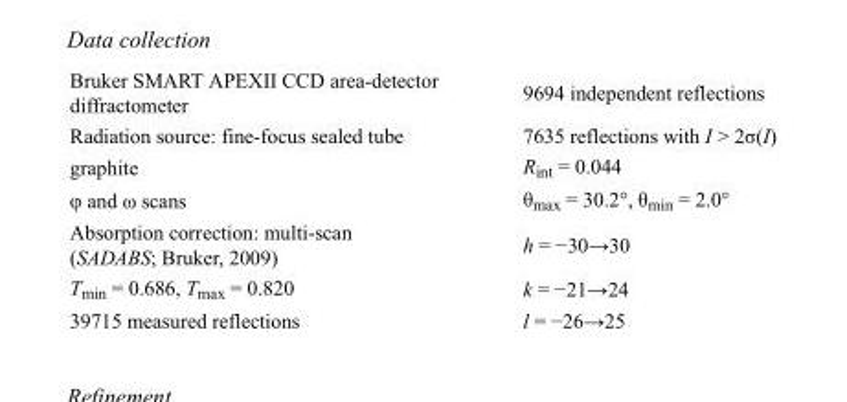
<table><tbody><tr><td>Bruker SMART APEXII CCD area-detector diffractometer</td><td>9694 independent reflections</td></tr><tr><td>Radiation source: fine-focus sealed tube</td><td>7635 reflections with I &gt; 2σ(I)</td></tr><tr><td>graphite</td><td>R<sub>int</sub> = 0.044</td></tr><tr><td>φ and ω scans</td><td>θ<sub>max</sub> = 30.2°, θ<sub>min</sub> = 2.0°</td></tr><tr><td>Absorption correction: multi-scan (SADABS; Bruker, 2009)</td><td>h = −30→30</td></tr><tr><td>T<sub>min</sub> = 0.686, T<sub>max</sub> = 0.820</td><td>k = −21→24</td></tr><tr><td>39715 measured reflections</td><td>l = −26→25</td></tr></tbody></table>